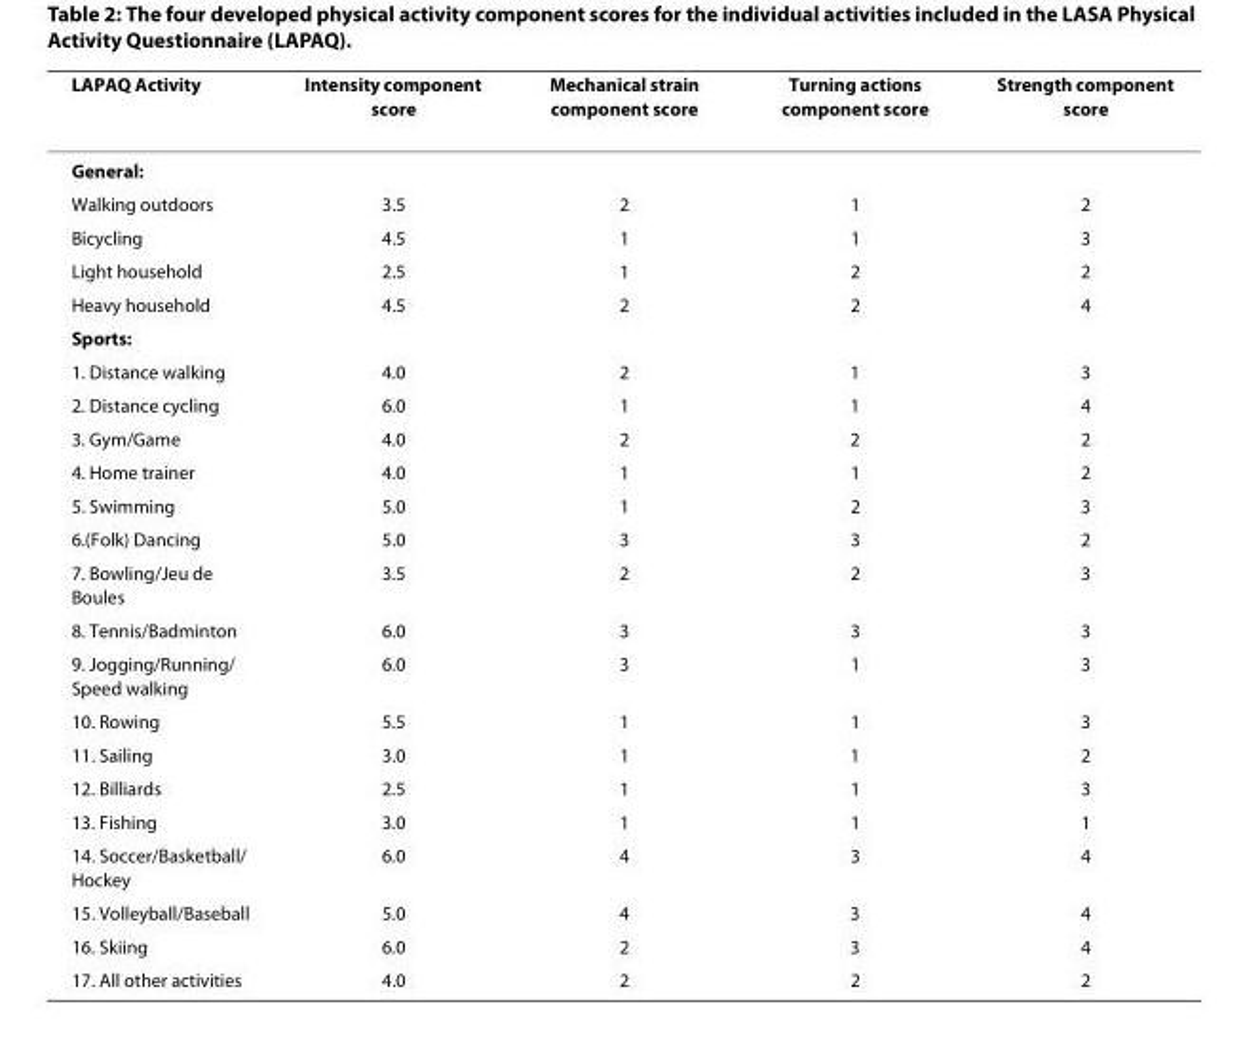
<table><thead><tr><td>LAPAQ Activity</td><td>Intensity component score</td><td>Mechanical strain component score</td><td>Turning actions component score</td><td>Strength component score</td></tr></thead><tbody><tr><td colspan="5">General:</td></tr><tr><td>Walking outdoors</td><td>3.5</td><td>2</td><td>1</td><td>2</td></tr><tr><td>Bicycling</td><td>4.5</td><td>1</td><td>1</td><td>3</td></tr><tr><td>Light household</td><td>2.5</td><td>1</td><td>2</td><td>2</td></tr><tr><td>Heavy household</td><td>4.5</td><td>2</td><td>2</td><td>4</td></tr><tr><td colspan="5">Sports:</td></tr><tr><td>1. Distance walking</td><td>4.0</td><td>2</td><td>1</td><td>3</td></tr><tr><td>2. Distance cycling</td><td>6.0</td><td>1</td><td>1</td><td>4</td></tr><tr><td>3. Gym/Game</td><td>4.0</td><td>2</td><td>2</td><td>2</td></tr><tr><td>4. Home trainer</td><td>4.0</td><td>1</td><td>1</td><td>2</td></tr><tr><td>5. Swimming</td><td>5.0</td><td>1</td><td>2</td><td>3</td></tr><tr><td>6.(Folk) Dancing</td><td>5.0</td><td>3</td><td>3</td><td>2</td></tr><tr><td>7. Bowling/Jeu de Boules</td><td>3.5</td><td>2</td><td>2</td><td>3</td></tr><tr><td>8. Tennis/Badminton</td><td>6.0</td><td>3</td><td>3</td><td>3</td></tr><tr><td>9. Jogging/Running/ Speed walking</td><td>6.0</td><td>3</td><td>1</td><td>3</td></tr><tr><td>10. Rowing</td><td>5.5</td><td>1</td><td>1</td><td>3</td></tr><tr><td>11. Sailing</td><td>3.0</td><td>1</td><td>1</td><td>2</td></tr><tr><td>12. Billiards</td><td>2.5</td><td>1</td><td>1</td><td>3</td></tr><tr><td>13. Fishing</td><td>3.0</td><td>1</td><td>1</td><td>1</td></tr><tr><td>14. Soccer/Basketball/ Hockey</td><td>6.0</td><td>4</td><td>3</td><td>4</td></tr><tr><td>15. Volleyball/Baseball</td><td>5.0</td><td>4</td><td>3</td><td>4</td></tr><tr><td>16. Skiing</td><td>6.0</td><td>2</td><td>3</td><td>4</td></tr><tr><td>17. All other activities</td><td>4.0</td><td>2</td><td>2</td><td>2</td></tr></tbody></table>